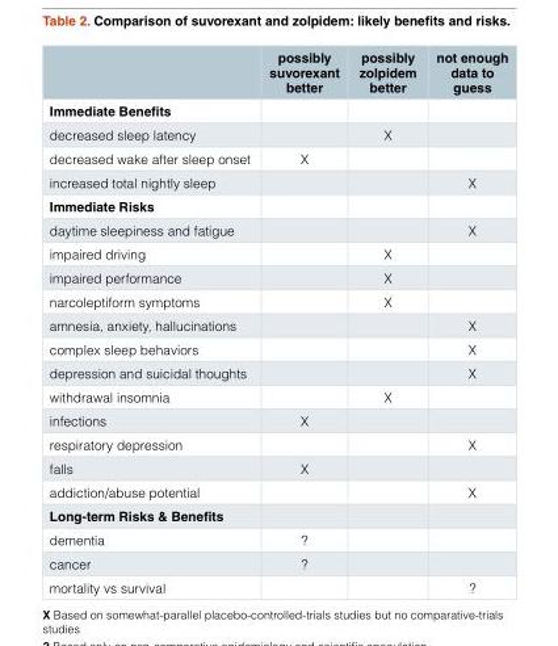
<table><thead><tr><td rowspan="2">Immediate Benefits</td><td rowspan="2">possibly suvorexant better</td><td rowspan="2">possibly zolpidem better</td><td rowspan="2">not enough data to guess</td></tr><tr></tr></thead><tbody><tr><td>decreased sleep latency</td><td></td><td>X</td><td></td></tr><tr><td>decreased wake after sleep onset</td><td>X</td><td></td><td></td></tr><tr><td>increased total nightly sleep</td><td></td><td></td><td>X</td></tr><tr><td colspan="4">Immediate Risks</td></tr><tr><td>daytime sleepiness and fatigue</td><td></td><td></td><td>X</td></tr><tr><td>impaired driving</td><td></td><td>X</td><td></td></tr><tr><td>impaired performance</td><td></td><td>X</td><td></td></tr><tr><td>narcoleptiform symptoms</td><td></td><td>X</td><td></td></tr><tr><td>amnesia, anxiety, hallucinations</td><td></td><td></td><td>X</td></tr><tr><td>complex sleep behaviors</td><td></td><td></td><td>X</td></tr><tr><td>depression and suicidal thoughts</td><td></td><td></td><td>X</td></tr><tr><td>withdrawal insomnia</td><td></td><td>X</td><td></td></tr><tr><td>infections</td><td>X</td><td></td><td></td></tr><tr><td>respiratory depression</td><td></td><td></td><td>X</td></tr><tr><td>falls</td><td>X</td><td></td><td></td></tr><tr><td>addiction/abuse potential</td><td></td><td></td><td>X</td></tr><tr><td colspan="4">Long-term Risks &amp; Benefits</td></tr><tr><td>dementia</td><td>?</td><td></td><td></td></tr><tr><td>cancer</td><td>?</td><td></td><td></td></tr><tr><td>mortality vs survival</td><td></td><td></td><td>?</td></tr></tbody></table>